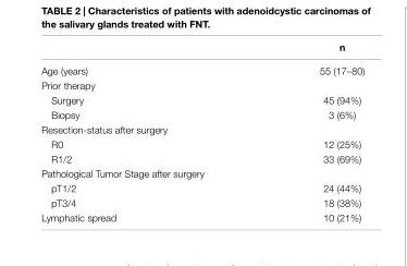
<table><thead><tr><td></td><td>n</td></tr></thead><tbody><tr><td>Age (years)</td><td>55 (17–80)</td></tr><tr><td colspan="2">Prior therapy</td></tr><tr><td>Surgery</td><td>45 (94%)</td></tr><tr><td>Biopsy</td><td>3 (6%)</td></tr><tr><td colspan="2">Resection-status after surgery</td></tr><tr><td>R0</td><td>12 (25%)</td></tr><tr><td>R1/2</td><td>33 (69%)</td></tr><tr><td colspan="2">Pathological Tumor Stage after surgery</td></tr><tr><td>pT1/2</td><td>24 (44%)</td></tr><tr><td>pT3/4</td><td>18 (38%)</td></tr><tr><td>Lymphatic spread</td><td>10 (21%)</td></tr></tbody></table>